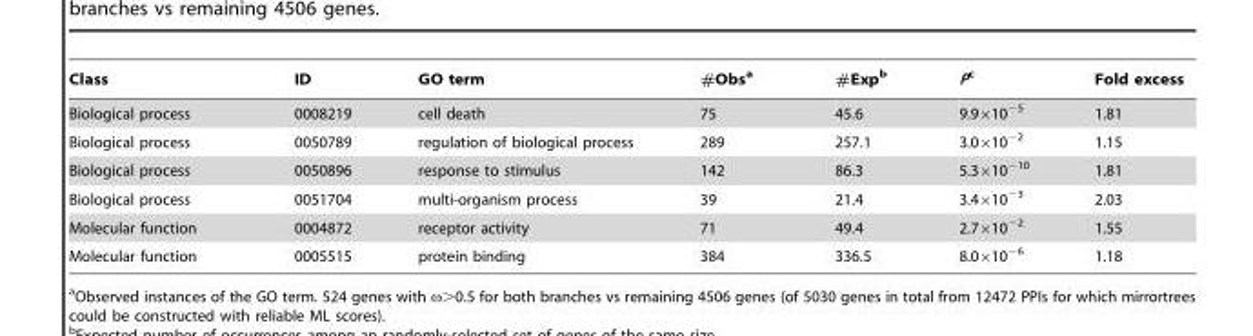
<table><thead><tr><td>Class</td><td>ID</td><td>GO term</td><td>#Obs<sup>a</sup></td><td>#Exp<sup>b</sup></td><td>Pc</td><td>Fold excess</td></tr></thead><tbody><tr><td>Biological process</td><td>0008219</td><td>cell death</td><td>75</td><td>45.6</td><td>9.9×10<sup>−5</sup></td><td>1.81</td></tr><tr><td>Biological process</td><td>0050789</td><td>regulation of biological process</td><td>289</td><td>257.1</td><td>3.0×10<sup>−2</sup></td><td>1.15</td></tr><tr><td>Biological process</td><td>0050896</td><td>response to stimulus</td><td>142</td><td>86.3</td><td>5.3×10<sup>−10</sup></td><td>1.81</td></tr><tr><td>Biological process</td><td>0051704</td><td>multi-organism process</td><td>39</td><td>21.4</td><td>3.4×10<sup>−3</sup></td><td>2.03</td></tr><tr><td>Molecular function</td><td>0004872</td><td>receptor activity</td><td>71</td><td>49.4</td><td>2.7×10<sup>−2</sup></td><td>1.55</td></tr><tr><td>Molecular function</td><td>0005515</td><td>protein binding</td><td>384</td><td>336.5</td><td>8.0×10<sup>−6</sup></td><td>1.18</td></tr></tbody></table>